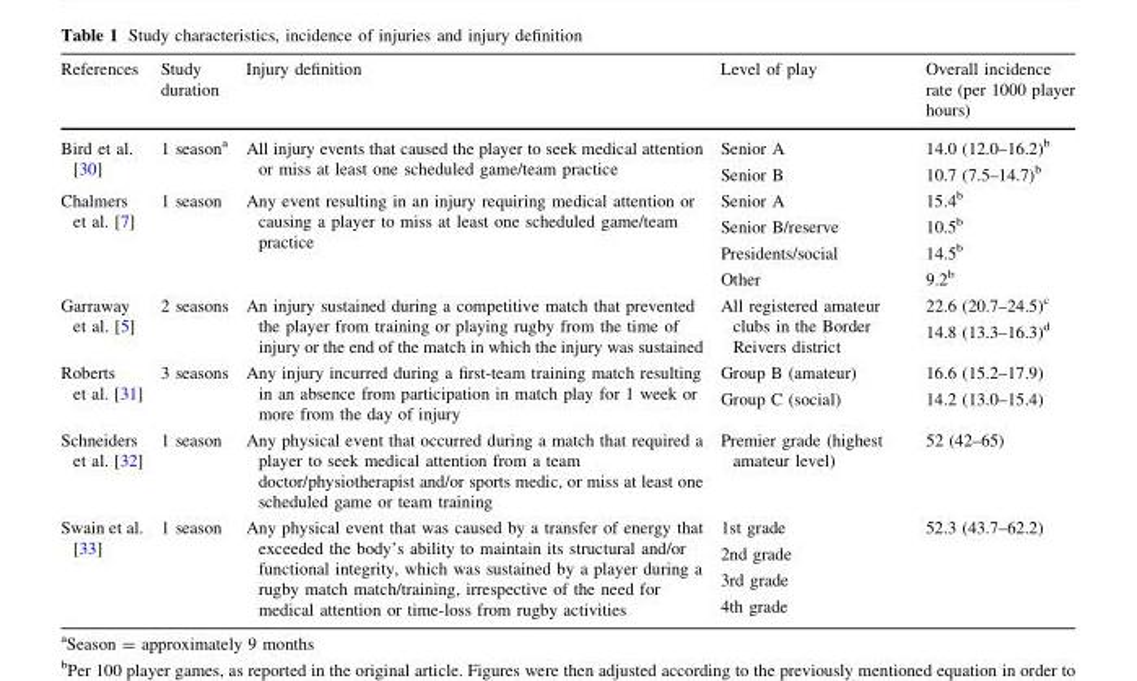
<table><thead><tr><td>References</td><td>Study duration</td><td>Injury definition</td><td>Level of play</td><td>Overall incidence rate (per 1000 player hours)</td></tr></thead><tbody><tr><td>Bird et al. [30]</td><td>1 season<sup>a</sup></td><td>All injury events that caused the player to seek medical attention or miss at least one scheduled game/team practice</td><td>Senior A Senior B</td><td>14.0 (12.0–16.2)<sup>b</sup> 10.7 (7.5–14.7)<sup>b</sup></td></tr><tr><td>Chalmers et al. [7]</td><td>1 season</td><td>Any event resulting in an injury requiring medical attention or causing a player to miss at least one scheduled game/team practice</td><td>Senior A Senior B/reserve Presidents/social Other</td><td>15.4<sup>b</sup> 10.5<sup>b</sup> 14.5<sup>b</sup> 9.2<sup>b</sup></td></tr><tr><td>Garraway et al. [5]</td><td>2 seasons</td><td>An injury sustained during a competitive match that prevented the player from training or playing rugby from the time of injury or the end of the match in which the injury was sustained</td><td>All registered amateur clubs in the Border Reivers district</td><td>22.6 (20.7–24.5)<sup>c</sup> 14.8 (13.3–16.3)<sup>d</sup></td></tr><tr><td>Roberts et al. [31]</td><td>3 seasons</td><td>Any injury incurred during a first-team training match resulting in an absence from participation in match play for 1 week or more from the day of injury</td><td>Group B (amateur) Group C (social)</td><td>16.6 (15.2–17.9) 14.2 (13.0–15.4)</td></tr><tr><td>Schneiders et al. [32]</td><td>1 season</td><td>Any physical event that occurred during a match that required a player to seek medical attention from a team doctor/physiotherapist and/or sports medic, or miss at least one scheduled game or team training</td><td>Premier grade (highest amateur level)</td><td>52 (42–65)</td></tr><tr><td>Swain et al. [33]</td><td>1 season</td><td>Any physical event that was caused by a transfer of energy that exceeded the body’s ability to maintain its structural and/or functional integrity, which was sustained by a player during a rugby match match/training, irrespective of the need for medical attention or time-loss from rugby activities</td><td>1st grade 2nd grade 3rd grade 4th grade</td><td>52.3 (43.7–62.2)</td></tr></tbody></table>